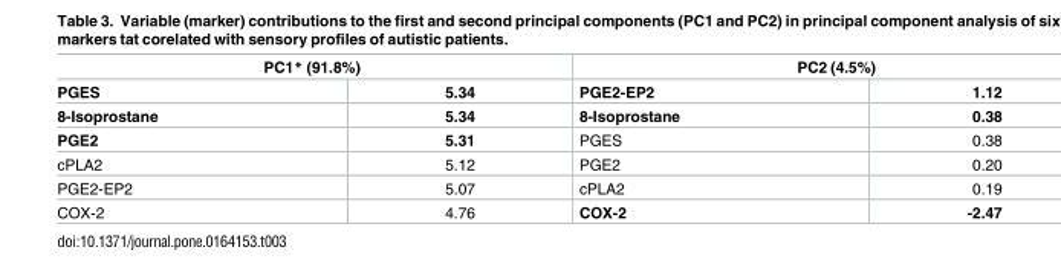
<table><thead><tr><td colspan="2">PC1* (91.8%)</td><td colspan="2">PC2 (4.5%)</td></tr><tr><td>PGES</td><td>5.34</td><td>PGE2-EP2</td><td>1.12</td></tr></thead><tbody><tr><td>8-Isoprostane</td><td>5.34</td><td>8-Isoprostane</td><td>0.38</td></tr><tr><td>PGE2</td><td>5.31</td><td>PGES</td><td>0.38</td></tr><tr><td>cPLA2</td><td>5.12</td><td>PGE2</td><td>0.20</td></tr><tr><td>PGE2-EP2</td><td>5.07</td><td>cPLA2</td><td>0.19</td></tr><tr><td>COX-2</td><td>4.76</td><td>COX-2</td><td>-2.47</td></tr></tbody></table>